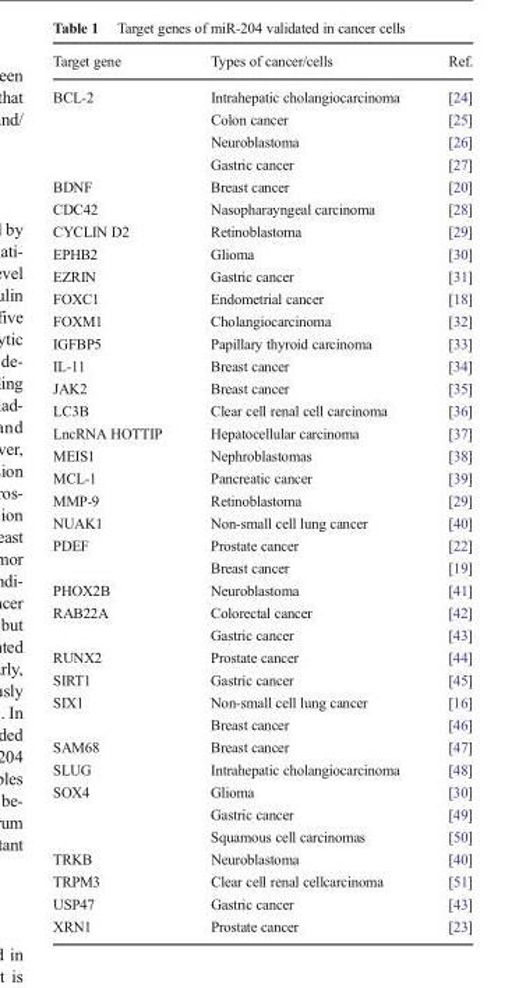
<table><thead><tr><td>Target gene</td><td>Types of cancer/cells</td><td>Ref.</td></tr></thead><tbody><tr><td rowspan="4">BCL-2</td><td>Intrahepatic cholangiocarcinoma</td><td>[24]</td></tr><tr><td>Colon cancer</td><td>[25]</td></tr><tr><td>Neuroblastoma</td><td>[26]</td></tr><tr><td>Gastric cancer</td><td>[27]</td></tr><tr><td>BDNF</td><td>Breast cancer</td><td>[20]</td></tr><tr><td>CDC42</td><td>Nasopharayngeal carcinoma</td><td>[28]</td></tr><tr><td>CYCLIN D2</td><td>Retinoblastoma</td><td>[29]</td></tr><tr><td>EPHB2</td><td>Glioma</td><td>[30]</td></tr><tr><td>EZRIN</td><td>Gastric cancer</td><td>[31]</td></tr><tr><td>FOXC1</td><td>Endometrial cancer</td><td>[18]</td></tr><tr><td>FOXM1</td><td>Cholangiocarcinoma</td><td>[32]</td></tr><tr><td>IGFBP5</td><td>Papillary thyroid carcinoma</td><td>[33]</td></tr><tr><td>IL-11</td><td>Breast cancer</td><td>[34]</td></tr><tr><td>JAK2</td><td>Breast cancer</td><td>[35]</td></tr><tr><td>LC3B</td><td>Clear cell renal cell carcinoma</td><td>[36]</td></tr><tr><td>LncRNA HOTTIP</td><td>Hepatocellular carcinoma</td><td>[37]</td></tr><tr><td>MEIS1</td><td>Nephroblastomas</td><td>[38]</td></tr><tr><td>MCL-1</td><td>Pancreatic cancer</td><td>[39]</td></tr><tr><td>MMP-9</td><td>Retinoblastoma</td><td>[29]</td></tr><tr><td>NUAK1</td><td>Non-small cell lung cancer</td><td>[40]</td></tr><tr><td rowspan="2">PDEF</td><td>Prostate cancer</td><td>[22]</td></tr><tr><td>Breast cancer</td><td>[19]</td></tr><tr><td>PHOX2B</td><td>Neuroblastoma</td><td>[41]</td></tr><tr><td rowspan="2">RAB22A</td><td>Colorectal cancer</td><td>[42]</td></tr><tr><td>Gastric cancer</td><td>[43]</td></tr><tr><td>RUNX2</td><td>Prostate cancer</td><td>[44]</td></tr><tr><td>SIRT1</td><td>Gastric cancer</td><td>[45]</td></tr><tr><td rowspan="2">SIX1</td><td>Non-small cell lung cancer</td><td>[16]</td></tr><tr><td>Breast cancer</td><td>[46]</td></tr><tr><td>SAM68</td><td>Breast cancer</td><td>[47]</td></tr><tr><td>SLUG</td><td>Intrahepatic cholangiocarcinoma</td><td>[48]</td></tr><tr><td rowspan="3">SOX4</td><td>Glioma</td><td>[30]</td></tr><tr><td>Gastric cancer</td><td>[49]</td></tr><tr><td>Squamous cell carcinomas</td><td>[50]</td></tr><tr><td>TRKB</td><td>Neuroblastoma</td><td>[40]</td></tr><tr><td>TRPM3</td><td>Clear cell renal cellcarcinoma</td><td>[51]</td></tr><tr><td>USP47</td><td>Gastric cancer</td><td>[43]</td></tr><tr><td>XRN1</td><td>Prostate cancer</td><td>[23]</td></tr></tbody></table>